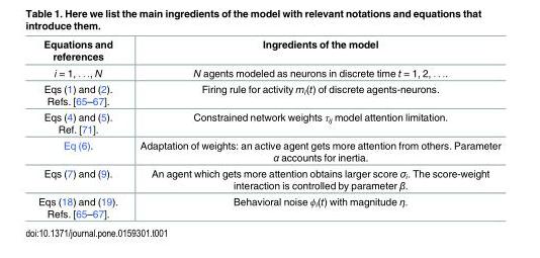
<table><thead><tr><td>Equations and references</td><td>Ingredients of the model</td></tr></thead><tbody><tr><td>i = 1, . . ., N</td><td>N agents modeled as neurons in discrete time t = 1, 2, . . ..</td></tr><tr><td>Eqs (1) and (2). Refs. [65–67].</td><td>Firing rule for activity m<sub>i</sub>(t) of discrete agents-neurons.</td></tr><tr><td>Eqs (4) and (5). Ref. [71].</td><td>Constrained network weights τ<sub>ij</sub> model attention limitation.</td></tr><tr><td>Eq (6).</td><td>Adaptation of weights: an active agent gets more attention from others. Parameter α accounts for inertia.</td></tr><tr><td>Eqs (7) and (9).</td><td>An agent which gets more attention obtains larger score σ<sub>i</sub>. The score-weight interaction is controlled by parameter β.</td></tr><tr><td>Eqs (18) and (19). Refs. [65–67].</td><td>Behavioral noise ϕ<sub>i</sub>(t) with magnitude η.</td></tr></tbody></table>